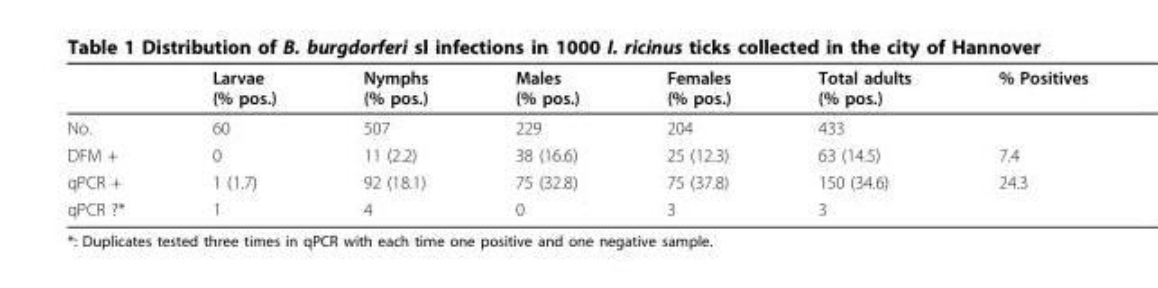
<table><thead><tr><td></td><td>Larvae (% pos.)</td><td>Nymphs (% pos.)</td><td>Males (% pos.)</td><td>Females (% pos.)</td><td>Total adults (% pos.)</td><td>% Positives</td></tr></thead><tbody><tr><td>No.</td><td>60</td><td>507</td><td>229</td><td>204</td><td>433</td><td></td></tr><tr><td>DFM +</td><td>0</td><td>11 (2.2)</td><td>38 (16.6)</td><td>25 (12.3)</td><td>63 (14.5)</td><td>7.4</td></tr><tr><td>qPCR +</td><td>1 (1.7)</td><td>92 (18.1)</td><td>75 (32.8)</td><td>75 (37.8)</td><td>150 (34.6)</td><td>24.3</td></tr><tr><td>qPCR ?*</td><td>1</td><td>4</td><td>0</td><td>3</td><td>3</td><td></td></tr></tbody></table>